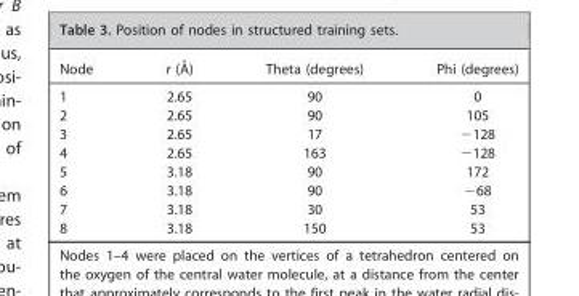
<table><thead><tr><td>Node</td><td>r (A˚)</td><td>Theta (degrees)</td><td>Phi (degrees)</td></tr></thead><tbody><tr><td>1</td><td>2.65</td><td>90</td><td>0</td></tr><tr><td>2</td><td>2.65</td><td>90</td><td>105</td></tr><tr><td>3</td><td>2.65</td><td>17</td><td>−128</td></tr><tr><td>4</td><td>2.65</td><td>163</td><td>−128</td></tr><tr><td>5</td><td>3.18</td><td>90</td><td>172</td></tr><tr><td>6</td><td>3.18</td><td>90</td><td>−68</td></tr><tr><td>7</td><td>3.18</td><td>30</td><td>53</td></tr><tr><td>8</td><td>3.18</td><td>150</td><td>53</td></tr></tbody></table>